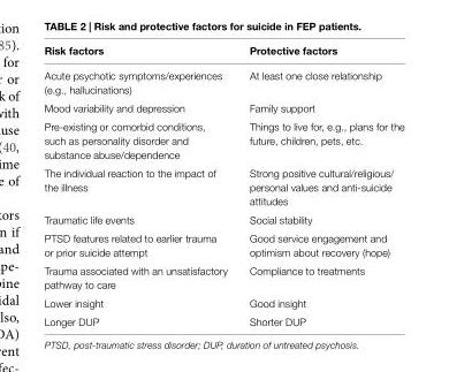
<table><thead><tr><td>Risk factors</td><td>Protective factors</td></tr></thead><tbody><tr><td>Acute psychotic symptoms/experiences (e.g., hallucinations)</td><td>At least one close relationship</td></tr><tr><td>Mood variability and depression</td><td>Family support</td></tr><tr><td>Pre-existing or comorbid conditions, such as personality disorder and substance abuse/dependence</td><td>Things to live for, e.g., plans for the future, children, pets, etc.</td></tr><tr><td>The individual reaction to the impact of the illness</td><td>Strong positive cultural/religious/ personal values and anti-suicide attitudes</td></tr><tr><td>Traumatic life events</td><td>Social stability</td></tr><tr><td>PTSD features related to earlier trauma or prior suicide attempt</td><td>Good service engagement and optimism about recovery (hope)</td></tr><tr><td>Trauma associated with an unsatisfactory pathway to care</td><td>Compliance to treatments</td></tr><tr><td>Lower insight</td><td>Good insight</td></tr><tr><td>Longer DUP</td><td>Shorter DUP</td></tr></tbody></table>